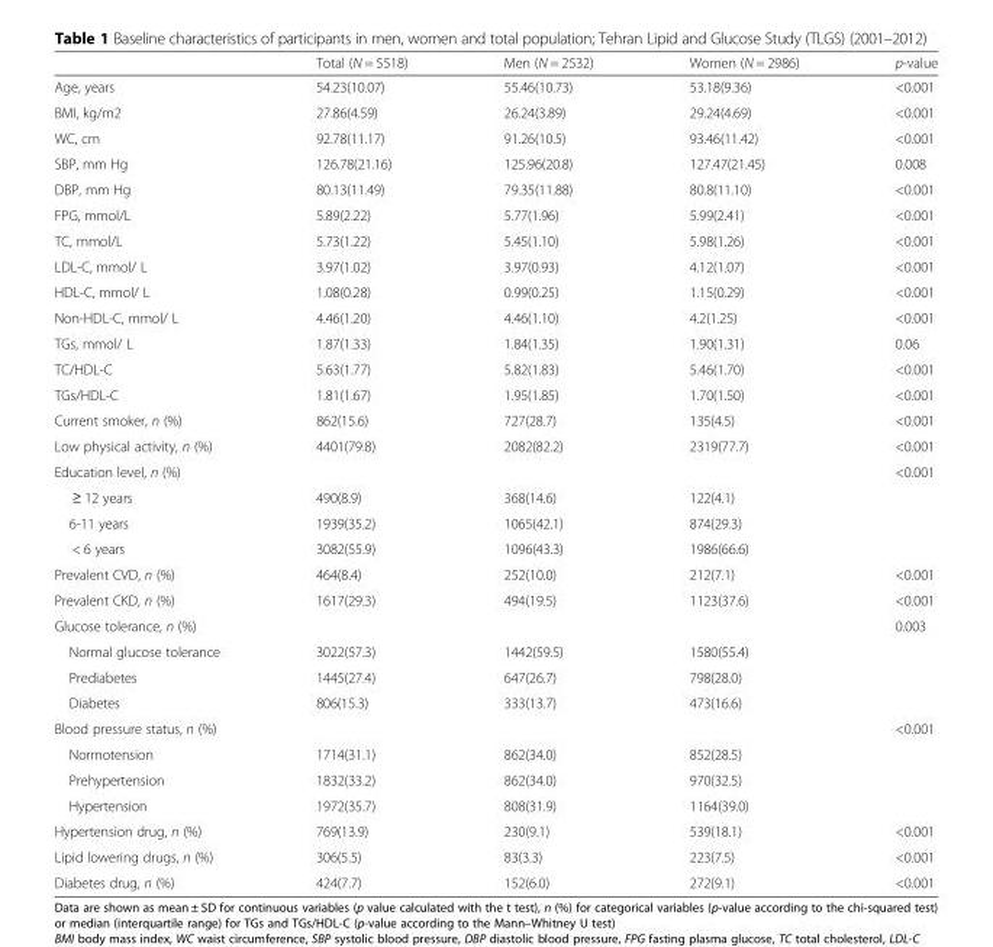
<table><thead><tr><td></td><td>Total (N = 5518)</td><td>Men (N = 2532)</td><td>Women (N = 2986)</td><td>p-value</td></tr></thead><tbody><tr><td>Age, years</td><td>54.23(10.07)</td><td>55.46(10.73)</td><td>53.18(9.36)</td><td>&lt;0.001</td></tr><tr><td>BMI, kg/m2</td><td>27.86(4.59)</td><td>26.24(3.89)</td><td>29.24(4.69)</td><td>&lt;0.001</td></tr><tr><td>WC, cm</td><td>92.78(11.17)</td><td>91.26(10.5)</td><td>93.46(11.42)</td><td>&lt;0.001</td></tr><tr><td>SBP, mm Hg</td><td>126.78(21.16)</td><td>125.96(20.8)</td><td>127.47(21.45)</td><td>0.008</td></tr><tr><td>DBP, mm Hg</td><td>80.13(11.49)</td><td>79.35(11.88)</td><td>80.8(11.10)</td><td>&lt;0.001</td></tr><tr><td>FPG, mmol/L</td><td>5.89(2.22)</td><td>5.77(1.96)</td><td>5.99(2.41)</td><td>&lt;0.001</td></tr><tr><td>TC, mmol/L</td><td>5.73(1.22)</td><td>5.45(1.10)</td><td>5.98(1.26)</td><td>&lt;0.001</td></tr><tr><td>LDL-C, mmol/ L</td><td>3.97(1.02)</td><td>3.97(0.93)</td><td>4.12(1.07)</td><td>&lt;0.001</td></tr><tr><td>HDL-C, mmol/ L</td><td>1.08(0.28)</td><td>0.99(0.25)</td><td>1.15(0.29)</td><td>&lt;0.001</td></tr><tr><td>Non-HDL-C, mmol/ L</td><td>4.46(1.20)</td><td>4.46(1.10)</td><td>4.2(1.25)</td><td>&lt;0.001</td></tr><tr><td>TGs, mmol/ L</td><td>1.87(1.33)</td><td>1.84(1.35)</td><td>1.90(1.31)</td><td>0.06</td></tr><tr><td>TC/HDL-C</td><td>5.63(1.77)</td><td>5.82(1.83)</td><td>5.46(1.70)</td><td>&lt;0.001</td></tr><tr><td>TGs/HDL-C</td><td>1.81(1.67)</td><td>1.95(1.85)</td><td>1.70(1.50)</td><td>&lt;0.001</td></tr><tr><td>Current smoker, n (%)</td><td>862(15.6)</td><td>727(28.7)</td><td>135(4.5)</td><td>&lt;0.001</td></tr><tr><td>Low physical activity, n (%)</td><td>4401(79.8)</td><td>2082(82.2)</td><td>2319(77.7)</td><td>&lt;0.001</td></tr><tr><td>Education level, n (%)</td><td></td><td></td><td></td><td>&lt;0.001</td></tr><tr><td>≥ 12 years</td><td>490(8.9)</td><td>368(14.6)</td><td>122(4.1)</td><td></td></tr><tr><td>6-11 years</td><td>1939(35.2)</td><td>1065(42.1)</td><td>874(29.3)</td><td></td></tr><tr><td>&lt; 6 years</td><td>3082(55.9)</td><td>1096(43.3)</td><td>1986(66.6)</td><td></td></tr><tr><td>Prevalent CVD, n (%)</td><td>464(8.4)</td><td>252(10.0)</td><td>212(7.1)</td><td>&lt;0.001</td></tr><tr><td>Prevalent CKD, n (%)</td><td>1617(29.3)</td><td>494(19.5)</td><td>1123(37.6)</td><td>&lt;0.001</td></tr><tr><td>Glucose tolerance, n (%)</td><td></td><td></td><td></td><td>0.003</td></tr><tr><td>Normal glucose tolerance</td><td>3022(57.3)</td><td>1442(59.5)</td><td>1580(55.4)</td><td></td></tr><tr><td>Prediabetes</td><td>1445(27.4)</td><td>647(26.7)</td><td>798(28.0)</td><td></td></tr><tr><td>Diabetes</td><td>806(15.3)</td><td>333(13.7)</td><td>473(16.6)</td><td></td></tr><tr><td>Blood pressure status, n (%)</td><td></td><td></td><td></td><td>&lt;0.001</td></tr><tr><td>Normotension</td><td>1714(31.1)</td><td>862(34.0)</td><td>852(28.5)</td><td></td></tr><tr><td>Prehypertension</td><td>1832(33.2)</td><td>862(34.0)</td><td>970(32.5)</td><td></td></tr><tr><td>Hypertension</td><td>1972(35.7)</td><td>808(31.9)</td><td>1164(39.0)</td><td></td></tr><tr><td>Hypertension drug, n (%)</td><td>769(13.9)</td><td>230(9.1)</td><td>539(18.1)</td><td>&lt;0.001</td></tr><tr><td>Lipid lowering drugs, n (%)</td><td>306(5.5)</td><td>83(3.3)</td><td>223(7.5)</td><td>&lt;0.001</td></tr><tr><td>Diabetes drug, n (%)</td><td>424(7.7)</td><td>152(6.0)</td><td>272(9.1)</td><td>&lt;0.001</td></tr></tbody></table>